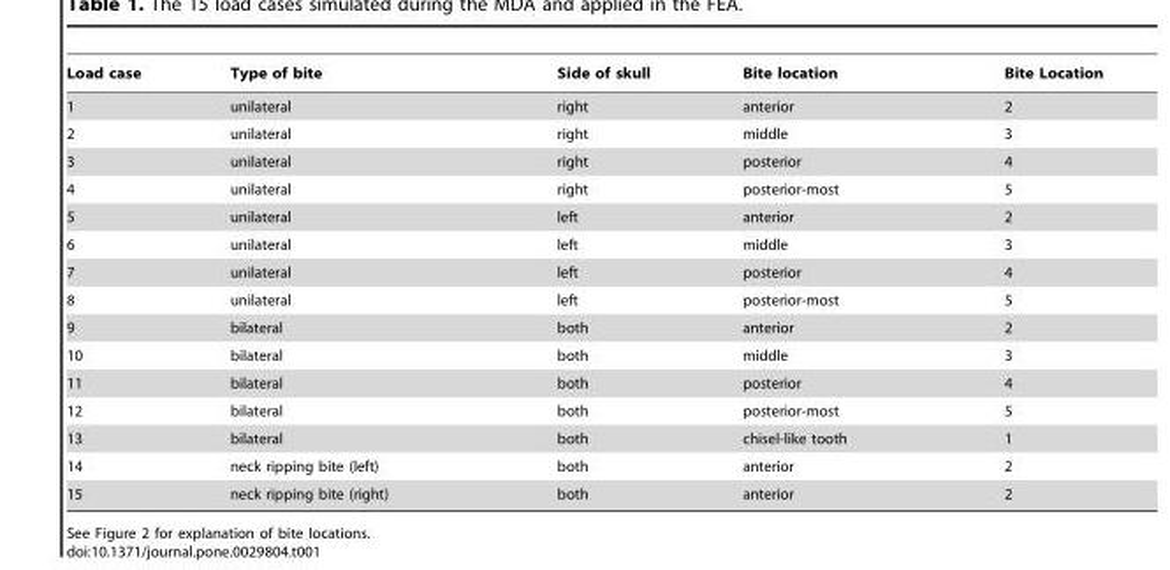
<table><thead><tr><td>Load case</td><td>Type of bite</td><td>Side of skull</td><td>Bite location</td><td>Bite Location</td></tr></thead><tbody><tr><td>1</td><td>unilateral</td><td>right</td><td>anterior</td><td>2</td></tr><tr><td>2</td><td>unilateral</td><td>right</td><td>middle</td><td>3</td></tr><tr><td>3</td><td>unilateral</td><td>right</td><td>posterior</td><td>4</td></tr><tr><td>4</td><td>unilateral</td><td>right</td><td>posterior-most</td><td>5</td></tr><tr><td>5</td><td>unilateral</td><td>left</td><td>anterior</td><td>2</td></tr><tr><td>6</td><td>unilateral</td><td>left</td><td>middle</td><td>3</td></tr><tr><td>7</td><td>unilateral</td><td>left</td><td>posterior</td><td>4</td></tr><tr><td>8</td><td>unilateral</td><td>left</td><td>posterior-most</td><td>5</td></tr><tr><td>9</td><td>bilateral</td><td>both</td><td>anterior</td><td>2</td></tr><tr><td>10</td><td>bilateral</td><td>both</td><td>middle</td><td>3</td></tr><tr><td>11</td><td>bilateral</td><td>both</td><td>posterior</td><td>4</td></tr><tr><td>12</td><td>bilateral</td><td>both</td><td>posterior-most</td><td>5</td></tr><tr><td>13</td><td>bilateral</td><td>both</td><td>chisel-like tooth</td><td>1</td></tr><tr><td>14</td><td>neck ripping bite (left)</td><td>both</td><td>anterior</td><td>2</td></tr><tr><td>15</td><td>neck ripping bite (right)</td><td>both</td><td>anterior</td><td>2</td></tr></tbody></table>